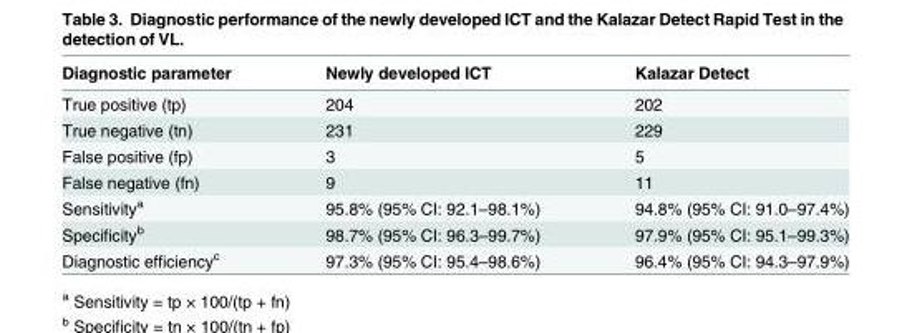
<table><thead><tr><td>Diagnostic parameter</td><td>Newly developed ICT</td><td>Kalazar Detect</td></tr></thead><tbody><tr><td>True positive (tp)</td><td>204</td><td>202</td></tr><tr><td>True negative (tn)</td><td>231</td><td>229</td></tr><tr><td>False positive (fp)</td><td>3</td><td>5</td></tr><tr><td>False negative (fn)</td><td>9</td><td>11</td></tr><tr><td>Sensitivity<sup>a</sup></td><td>95.8% (95% CI: 92.1–98.1%)</td><td>94.8% (95% CI: 91.0–97.4%)</td></tr><tr><td>Specificity<sup>b</sup></td><td>98.7% (95% CI: 96.3–99.7%)</td><td>97.9% (95% CI: 95.1–99.3%)</td></tr><tr><td>Diagnostic efficiency<sup>c</sup></td><td>97.3% (95% CI: 95.4–98.6%)</td><td>96.4% (95% CI: 94.3–97.9%)</td></tr></tbody></table>